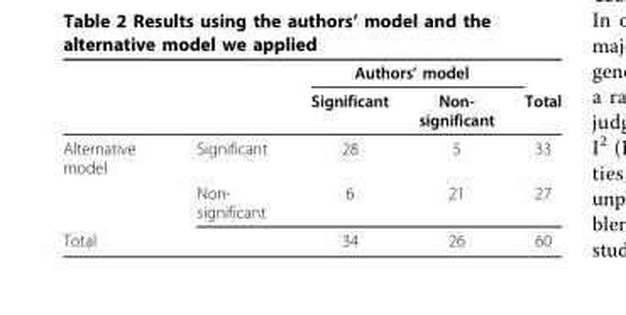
<table><thead><tr><td rowspan="2"></td><td rowspan="2"></td><td colspan="2">Authors’ model</td><td rowspan="2">Total</td></tr><tr><td>Significant</td><td>Non- significant</td></tr></thead><tbody><tr><td rowspan="2">Alternative model</td><td>Significant</td><td>28</td><td>5</td><td>33</td></tr><tr><td>Non- significant</td><td>6</td><td>21</td><td>27</td></tr><tr><td>Total</td><td></td><td>34</td><td>26</td><td>60</td></tr></tbody></table>